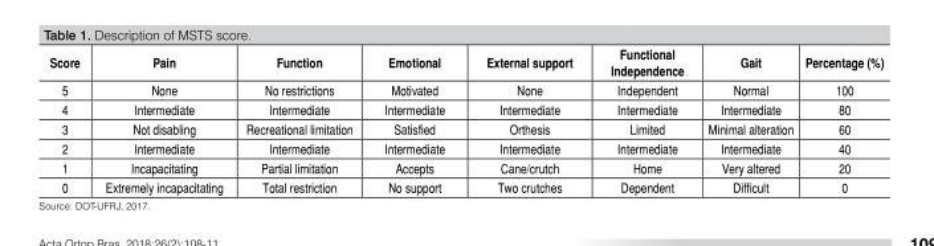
<table><thead><tr><td>Score</td><td>Pain</td><td>Function</td><td>Emotional</td><td>External support</td><td>Functional Independence</td><td>Gait</td><td>Percentage (%)</td></tr></thead><tbody><tr><td>5</td><td>None</td><td>No restrictions</td><td>Motivated</td><td>None</td><td>Independent</td><td>Normal</td><td>100</td></tr><tr><td>4</td><td>Intermediate</td><td>Intermediate</td><td>Intermediate</td><td>Intermediate</td><td>Intermediate</td><td>Intermediate</td><td>80</td></tr><tr><td>3</td><td>Not disabling</td><td>Recreational limitation</td><td>Satisfied</td><td>Orthesis</td><td>Limited</td><td>Minimal alteration</td><td>60</td></tr><tr><td>2</td><td>Intermediate</td><td>Intermediate</td><td>Intermediate</td><td>Intermediate</td><td>Intermediate</td><td>Intermediate</td><td>40</td></tr><tr><td>1</td><td>Incapacitating</td><td>Partial limitation</td><td>Accepts</td><td>Cane/crutch</td><td>Home</td><td>Very altered</td><td>20</td></tr><tr><td>0</td><td>Extremely incapacitating</td><td>Total restriction</td><td>No support</td><td>Two crutches</td><td>Dependent</td><td>Difficult</td><td>0</td></tr></tbody></table>